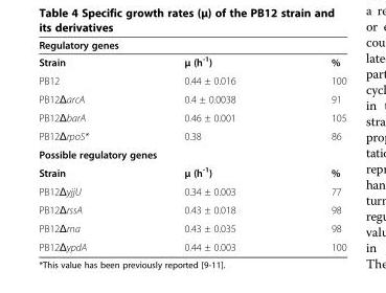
<table><thead><tr><td colspan="3">Regulatory genes</td></tr><tr><td>Strain</td><td>μ (h<sup>-1</sup>)</td><td>%</td></tr></thead><tbody><tr><td>PB12</td><td>0.44 ± 0.016</td><td>100</td></tr><tr><td>PB12ΔarcA</td><td>0.4 ± 0.0038</td><td>91</td></tr><tr><td>PB12ΔbarA</td><td>0.46 ± 0.001</td><td>105</td></tr><tr><td>PB12ΔrpoS*</td><td>0.38</td><td>86</td></tr><tr><td colspan="3">Possible regulatory genes</td></tr><tr><td>Strain</td><td>μ (h<sup>-1</sup>)</td><td>%</td></tr><tr><td>PB12ΔyjjU</td><td>0.34 ± 0.003</td><td>77</td></tr><tr><td>PB12ΔrssA</td><td>0.43 ± 0.018</td><td>98</td></tr><tr><td>PB12Δrna</td><td>0.43 ± 0.035</td><td>98</td></tr><tr><td>PB12ΔypdA</td><td>0.44 ± 0.003</td><td>100</td></tr></tbody></table>